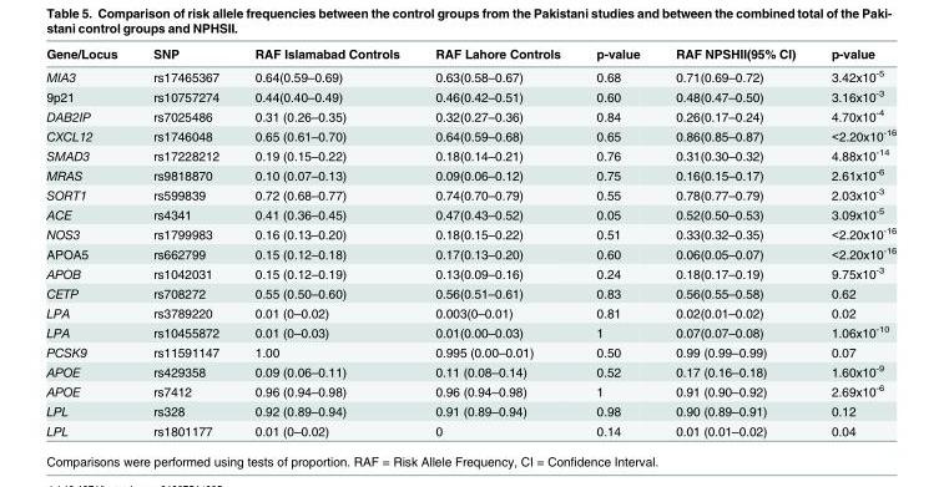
<table><thead><tr><td>Gene/Locus</td><td>SNP</td><td>RAF Islamabad Controls</td><td>RAF Lahore Controls</td><td>p-value</td><td>RAF NPSHII(95% CI)</td><td>p-value</td></tr></thead><tbody><tr><td>MIA3</td><td>rs17465367</td><td>0.64(0.59–0.69)</td><td>0.63(0.58–0.67)</td><td>0.68</td><td>0.71(0.69–0.72)</td><td>3.42x10<sup>-5</sup></td></tr><tr><td>9p21</td><td>rs10757274</td><td>0.44(0.40–0.49)</td><td>0.46(0.42–0.51)</td><td>0.60</td><td>0.48(0.47–0.50)</td><td>3.16x10<sup>-3</sup></td></tr><tr><td>DAB2IP</td><td>rs7025486</td><td>0.31 (0.26–0.35)</td><td>0.32(0.27–0.36)</td><td>0.84</td><td>0.26(0.17–0.24)</td><td>4.70x10<sup>-4</sup></td></tr><tr><td>CXCL12</td><td>rs1746048</td><td>0.65 (0.61–0.70)</td><td>0.64(0.59–0.68)</td><td>0.65</td><td>0.86(0.85–0.87)</td><td>&lt;2.20x10<sup>-16</sup></td></tr><tr><td>SMAD3</td><td>rs17228212</td><td>0.19 (0.15–0.22)</td><td>0.18(0.14–0.21)</td><td>0.76</td><td>0.31(0.30–0.32)</td><td>4.88x10<sup>-14</sup></td></tr><tr><td>MRAS</td><td>rs9818870</td><td>0.10 (0.07–0.13)</td><td>0.09(0.06–0.12)</td><td>0.75</td><td>0.16(0.15–0.17)</td><td>2.61x10<sup>-6</sup></td></tr><tr><td>SORT1</td><td>rs599839</td><td>0.72 (0.68–0.77)</td><td>0.74(0.70–0.79)</td><td>0.55</td><td>0.78(0.77–0.79)</td><td>2.03x10<sup>-3</sup></td></tr><tr><td>ACE</td><td>rs4341</td><td>0.41 (0.36–0.45)</td><td>0.47(0.43–0.52)</td><td>0.05</td><td>0.52(0.50–0.53)</td><td>3.09x10<sup>-5</sup></td></tr><tr><td>NOS3</td><td>rs1799983</td><td>0.16 (0.13–0.20)</td><td>0.18(0.15–0.22)</td><td>0.51</td><td>0.33(0.32–0.35)</td><td>&lt;2.20x10<sup>-16</sup></td></tr><tr><td>APOA5</td><td>rs662799</td><td>0.15 (0.12–0.18)</td><td>0.17(0.13–0.20)</td><td>0.60</td><td>0.06(0.05–0.07)</td><td>&lt;2.20x10<sup>-16</sup></td></tr><tr><td>APOB</td><td>rs1042031</td><td>0.15 (0.12–0.19)</td><td>0.13(0.09–0.16)</td><td>0.24</td><td>0.18(0.17–0.19)</td><td>9.75x10<sup>-3</sup></td></tr><tr><td>CETP</td><td>rs708272</td><td>0.55 (0.50–0.60)</td><td>0.56(0.51–0.61)</td><td>0.83</td><td>0.56(0.55–0.58)</td><td>0.62</td></tr><tr><td>LPA</td><td>rs3789220</td><td>0.01 (0–0.02)</td><td>0.003(0–0.01)</td><td>0.81</td><td>0.02(0.01–0.02)</td><td>0.02</td></tr><tr><td>LPA</td><td>rs10455872</td><td>0.01 (0–0.03)</td><td>0.01(0.00–0.03)</td><td>1</td><td>0.07(0.07–0.08)</td><td>1.06x10<sup>-10</sup></td></tr><tr><td>PCSK9</td><td>rs11591147</td><td>1.00</td><td>0.995 (0.00–0.01)</td><td>0.50</td><td>0.99 (0.99–0.99)</td><td>0.07</td></tr><tr><td>APOE</td><td>rs429358</td><td>0.09 (0.06–0.11)</td><td>0.11 (0.08–0.14)</td><td>0.52</td><td>0.17 (0.16–0.18)</td><td>1.60x10<sup>-9</sup></td></tr><tr><td>APOE</td><td>rs7412</td><td>0.96 (0.94–0.98)</td><td>0.96 (0.94–0.98)</td><td>1</td><td>0.91 (0.90–0.92)</td><td>2.69x10<sup>-6</sup></td></tr><tr><td>LPL</td><td>rs328</td><td>0.92 (0.89–0.94)</td><td>0.91 (0.89–0.94)</td><td>0.98</td><td>0.90 (0.89–0.91)</td><td>0.12</td></tr><tr><td>LPL</td><td>rs1801177</td><td>0.01 (0–0.02)</td><td>0</td><td>0.14</td><td>0.01 (0.01–0.02)</td><td>0.04</td></tr></tbody></table>